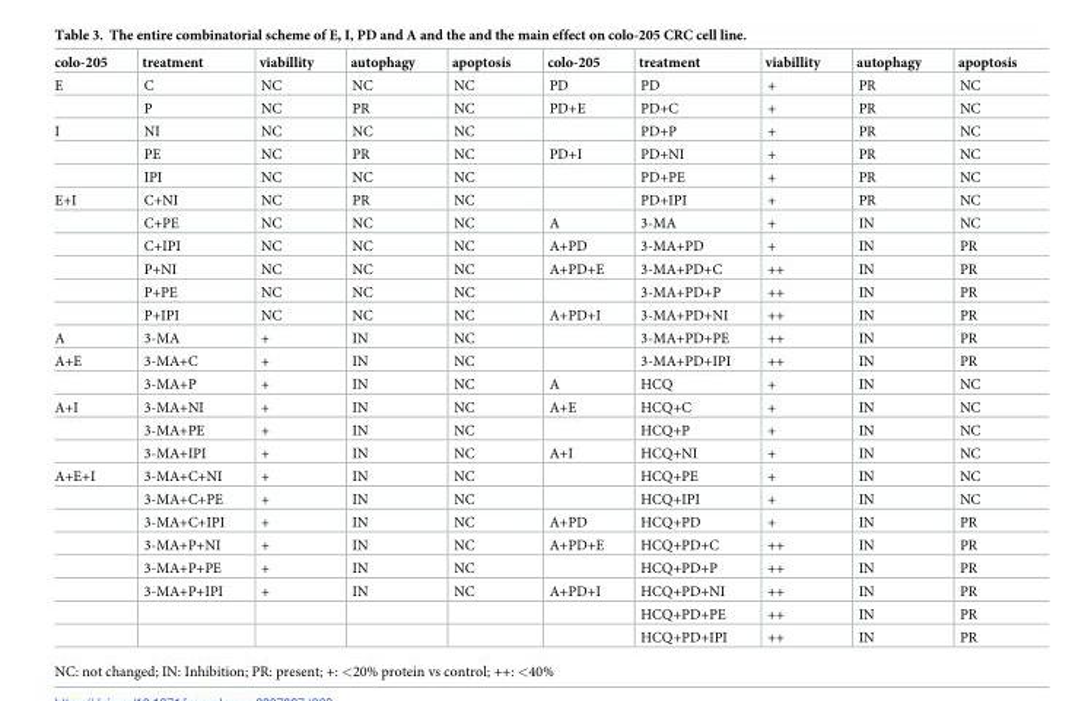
<table><thead><tr><td>colo-205</td><td>treatment</td><td>viabillity</td><td>autophagy</td><td>apoptosis</td><td>colo-205</td><td>treatment</td><td>viabillity</td><td>autophagy</td><td>apoptosis</td></tr></thead><tbody><tr><td rowspan="2">E</td><td>C</td><td>NC</td><td>NC</td><td>NC</td><td>PD</td><td>PD</td><td>+</td><td>PR</td><td>NC</td></tr><tr><td>P</td><td>NC</td><td>PR</td><td>NC</td><td>PD+E</td><td>PD+C</td><td>+</td><td>PR</td><td>NC</td></tr><tr><td rowspan="3">I</td><td>NI</td><td>NC</td><td>NC</td><td>NC</td><td></td><td>PD+P</td><td>+</td><td>PR</td><td>NC</td></tr><tr><td>PE</td><td>NC</td><td>PR</td><td>NC</td><td>PD+I</td><td>PD+NI</td><td>+</td><td>PR</td><td>NC</td></tr><tr><td>IPI</td><td>NC</td><td>NC</td><td>NC</td><td></td><td>PD+PE</td><td>+</td><td>PR</td><td>NC</td></tr><tr><td rowspan="6">E+I</td><td>C+NI</td><td>NC</td><td>PR</td><td>NC</td><td></td><td>PD+IPI</td><td>+</td><td>PR</td><td>NC</td></tr><tr><td>C+PE</td><td>NC</td><td>NC</td><td>NC</td><td>A</td><td>3-MA</td><td>+</td><td>IN</td><td>NC</td></tr><tr><td>C+IPI</td><td>NC</td><td>NC</td><td>NC</td><td>A+PD</td><td>3-MA+PD</td><td>+</td><td>IN</td><td>PR</td></tr><tr><td>P+NI</td><td>NC</td><td>NC</td><td>NC</td><td>A+PD+E</td><td>3-MA+PD+C</td><td>++</td><td>IN</td><td>PR</td></tr><tr><td>P+PE</td><td>NC</td><td>NC</td><td>NC</td><td></td><td>3-MA+PD+P</td><td>++</td><td>IN</td><td>PR</td></tr><tr><td>P+IPI</td><td>NC</td><td>NC</td><td>NC</td><td>A+PD+I</td><td>3-MA+PD+NI</td><td>++</td><td>IN</td><td>PR</td></tr><tr><td>A</td><td>3-MA</td><td>+</td><td>IN</td><td>NC</td><td></td><td>3-MA+PD+PE</td><td>++</td><td>IN</td><td>PR</td></tr><tr><td rowspan="2">A+E</td><td>3-MA+C</td><td>+</td><td>IN</td><td>NC</td><td></td><td>3-MA+PD+IPI</td><td>++</td><td>IN</td><td>PR</td></tr><tr><td>3-MA+P</td><td>+</td><td>IN</td><td>NC</td><td>A</td><td>HCQ</td><td>+</td><td>IN</td><td>NC</td></tr><tr><td rowspan="3">A+I</td><td>3-MA+NI</td><td>+</td><td>IN</td><td>NC</td><td>A+E</td><td>HCQ+C</td><td>+</td><td>IN</td><td>NC</td></tr><tr><td>3-MA+PE</td><td>+</td><td>IN</td><td>NC</td><td></td><td>HCQ+P</td><td>+</td><td>IN</td><td>NC</td></tr><tr><td>3-MA+IPI</td><td>+</td><td>IN</td><td>NC</td><td>A+I</td><td>HCQ+NI</td><td>+</td><td>IN</td><td>NC</td></tr><tr><td rowspan="8">A+E+I</td><td>3-MA+C+NI</td><td>+</td><td>IN</td><td>NC</td><td></td><td>HCQ+PE</td><td>+</td><td>IN</td><td>NC</td></tr><tr><td>3-MA+C+PE</td><td>+</td><td>IN</td><td>NC</td><td></td><td>HCQ+IPI</td><td>+</td><td>IN</td><td>NC</td></tr><tr><td>3-MA+C+IPI</td><td>+</td><td>IN</td><td>NC</td><td>A+PD</td><td>HCQ+PD</td><td>+</td><td>IN</td><td>PR</td></tr><tr><td>3-MA+P+NI</td><td>+</td><td>IN</td><td>NC</td><td>A+PD+E</td><td>HCQ+PD+C</td><td>++</td><td>IN</td><td>PR</td></tr><tr><td>3-MA+P+PE</td><td>+</td><td>IN</td><td>NC</td><td></td><td>HCQ+PD+P</td><td>++</td><td>IN</td><td>PR</td></tr><tr><td>3-MA+P+IPI</td><td>+</td><td>IN</td><td>NC</td><td>A+PD+I</td><td>HCQ+PD+NI</td><td>++</td><td>IN</td><td>PR</td></tr><tr><td></td><td></td><td></td><td></td><td></td><td>HCQ+PD+PE</td><td>++</td><td>IN</td><td>PR</td></tr><tr><td></td><td></td><td></td><td></td><td></td><td>HCQ+PD+IPI</td><td>++</td><td>IN</td><td>PR</td></tr></tbody></table>